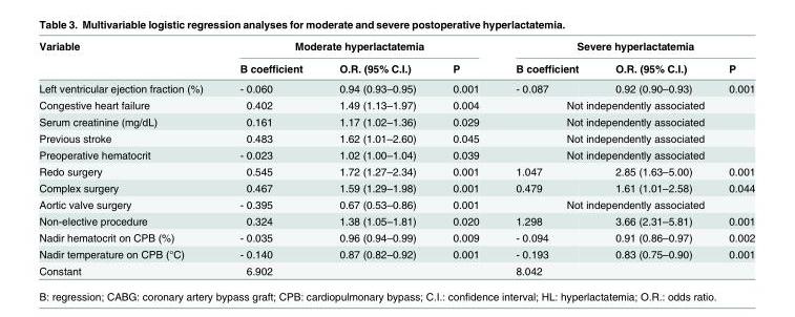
<table><thead><tr><td rowspan="2">Variable</td><td colspan="3">Moderate hyperlactatemia</td><td colspan="3">Severe hyperlactatemia</td></tr><tr><td>B coefficient</td><td>O.R. (95% C.I.)</td><td>P</td><td>B coefficient</td><td>O.R. (95% C.I.)</td><td>P</td></tr></thead><tbody><tr><td>Left ventricular ejection fraction (%)</td><td>- 0.060</td><td>0.94 (0.93–0.95)</td><td>0.001</td><td>- 0.087</td><td>0.92 (0.90–0.93)</td><td>0.001</td></tr><tr><td>Congestive heart failure</td><td>0.402</td><td>1.49 (1.13–1.97)</td><td>0.004</td><td colspan="3">Not independently associated</td></tr><tr><td>Serum creatinine (mg/dL)</td><td>0.161</td><td>1.17 (1.02–1.36)</td><td>0.029</td><td colspan="3">Not independently associated</td></tr><tr><td>Previous stroke</td><td>0.483</td><td>1.62 (1.01–2.60)</td><td>0.045</td><td colspan="3">Not independently associated</td></tr><tr><td>Preoperative hematocrit</td><td>- 0.023</td><td>1.02 (1.00–1.04)</td><td>0.039</td><td colspan="3">Not independently associated</td></tr><tr><td>Redo surgery</td><td>0.545</td><td>1.72 (1.27–2.34)</td><td>0.001</td><td>1.047</td><td>2.85 (1.63–5.00)</td><td>0.001</td></tr><tr><td>Complex surgery</td><td>0.467</td><td>1.59 (1.29–1.98)</td><td>0.001</td><td>0.479</td><td>1.61 (1.01–2.58)</td><td>0.044</td></tr><tr><td>Aortic valve surgery</td><td>- 0.395</td><td>0.67 (0.53–0.86)</td><td>0.001</td><td colspan="3">Not independently associated</td></tr><tr><td>Non-elective procedure</td><td>0.324</td><td>1.38 (1.05–1.81)</td><td>0.020</td><td>1.298</td><td>3.66 (2.31–5.81)</td><td>0.001</td></tr><tr><td>Nadir hematocrit on CPB (%)</td><td>- 0.035</td><td>0.96 (0.94–0.99)</td><td>0.009</td><td>- 0.094</td><td>0.91 (0.86–0.97)</td><td>0.002</td></tr><tr><td>Nadir temperature on CPB (°C)</td><td>- 0.140</td><td>0.87 (0.82–0.92)</td><td>0.001</td><td>- 0.193</td><td>0.83 (0.75–0.90)</td><td>0.001</td></tr><tr><td>Constant</td><td>6.902</td><td></td><td></td><td>8.042</td><td></td><td></td></tr></tbody></table>